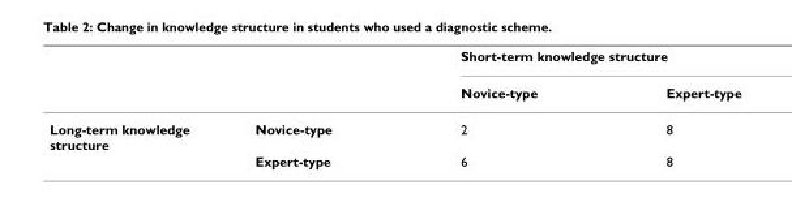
<table><thead><tr><td rowspan="2"></td><td rowspan="2"></td><td colspan="2">Short-term knowledge structure</td></tr><tr><td>Novice-type</td><td>Expert-type</td></tr></thead><tbody><tr><td rowspan="2">Long-term knowledge structure</td><td>Novice-type</td><td>2</td><td>8</td></tr><tr><td>Expert-type</td><td>6</td><td>8</td></tr></tbody></table>